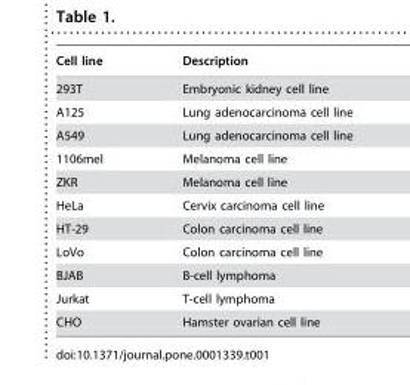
<table><thead><tr><td>Cell line</td><td>Description</td></tr></thead><tbody><tr><td>293T</td><td>Embryonic kidney cell line</td></tr><tr><td>A125</td><td>Lung adenocarcinoma cell line</td></tr><tr><td>A549</td><td>Lung adenocarcinoma cell line</td></tr><tr><td>1106mel</td><td>Melanoma cell line</td></tr><tr><td>ZKR</td><td>Melanoma cell line</td></tr><tr><td>HeLa</td><td>Cervix carcinoma cell line</td></tr><tr><td>HT-29</td><td>Colon carcinoma cell line</td></tr><tr><td>LoVo</td><td>Colon carcinoma cell line</td></tr><tr><td>BJAB</td><td>B-cell lymphoma</td></tr><tr><td>Jurkat</td><td>T-cell lymphoma</td></tr><tr><td>CHO</td><td>Hamster ovarian cell line</td></tr></tbody></table>